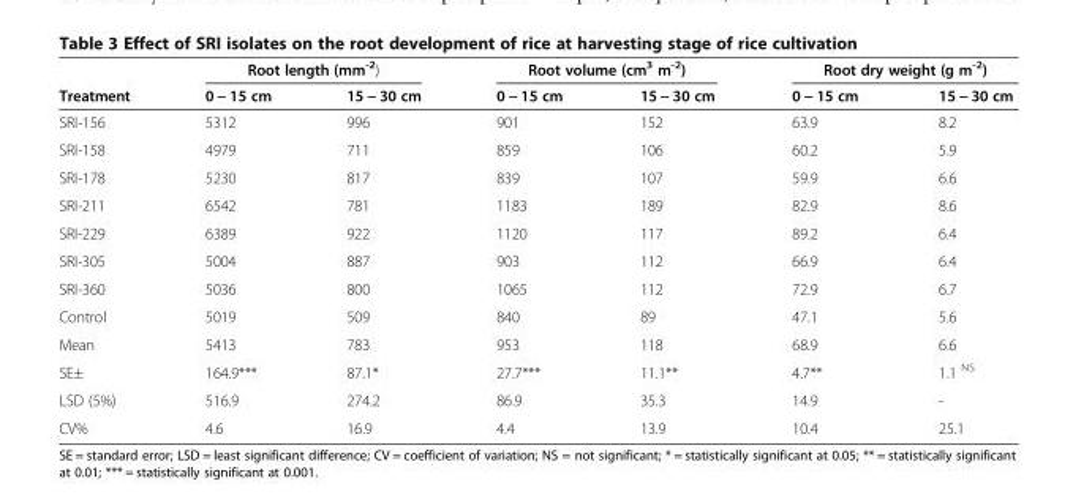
<table><thead><tr><td rowspan="2">Treatment</td><td colspan="2">Root length (mm<sup>-2</sup>)</td><td colspan="2">Root volume (cm<sup>3</sup> m<sup>-2</sup>)</td><td colspan="2">Root dry weight (g m<sup>-2</sup>)</td></tr><tr><td>0 − 15 cm</td><td>15 − 30 cm</td><td>0 − 15 cm</td><td>15 − 30 cm</td><td>0 − 15 cm</td><td>15 − 30 cm</td></tr></thead><tbody><tr><td>SRI-156</td><td>5312</td><td>996</td><td>901</td><td>152</td><td>63.9</td><td>8.2</td></tr><tr><td>SRI-158</td><td>4979</td><td>711</td><td>859</td><td>106</td><td>60.2</td><td>5.9</td></tr><tr><td>SRI-178</td><td>5230</td><td>817</td><td>839</td><td>107</td><td>59.9</td><td>6.6</td></tr><tr><td>SRI-211</td><td>6542</td><td>781</td><td>1183</td><td>189</td><td>82.9</td><td>8.6</td></tr><tr><td>SRI-229</td><td>6389</td><td>922</td><td>1120</td><td>117</td><td>89.2</td><td>6.4</td></tr><tr><td>SRI-305</td><td>5004</td><td>887</td><td>903</td><td>112</td><td>66.9</td><td>6.4</td></tr><tr><td>SRI-360</td><td>5036</td><td>800</td><td>1065</td><td>112</td><td>72.9</td><td>6.7</td></tr><tr><td>Control</td><td>5019</td><td>509</td><td>840</td><td>89</td><td>47.1</td><td>5.6</td></tr><tr><td>Mean</td><td>5413</td><td>783</td><td>953</td><td>118</td><td>68.9</td><td>6.6</td></tr><tr><td>SE±</td><td>164.9***</td><td>87.1*</td><td>27.7***</td><td>11.1**</td><td>4.7**</td><td>1.1 <sup>NS</sup></td></tr><tr><td>LSD (5%)</td><td>516.9</td><td>274.2</td><td>86.9</td><td>35.3</td><td>14.9</td><td>-</td></tr><tr><td>CV%</td><td>4.6</td><td>16.9</td><td>4.4</td><td>13.9</td><td>10.4</td><td>25.1</td></tr></tbody></table>